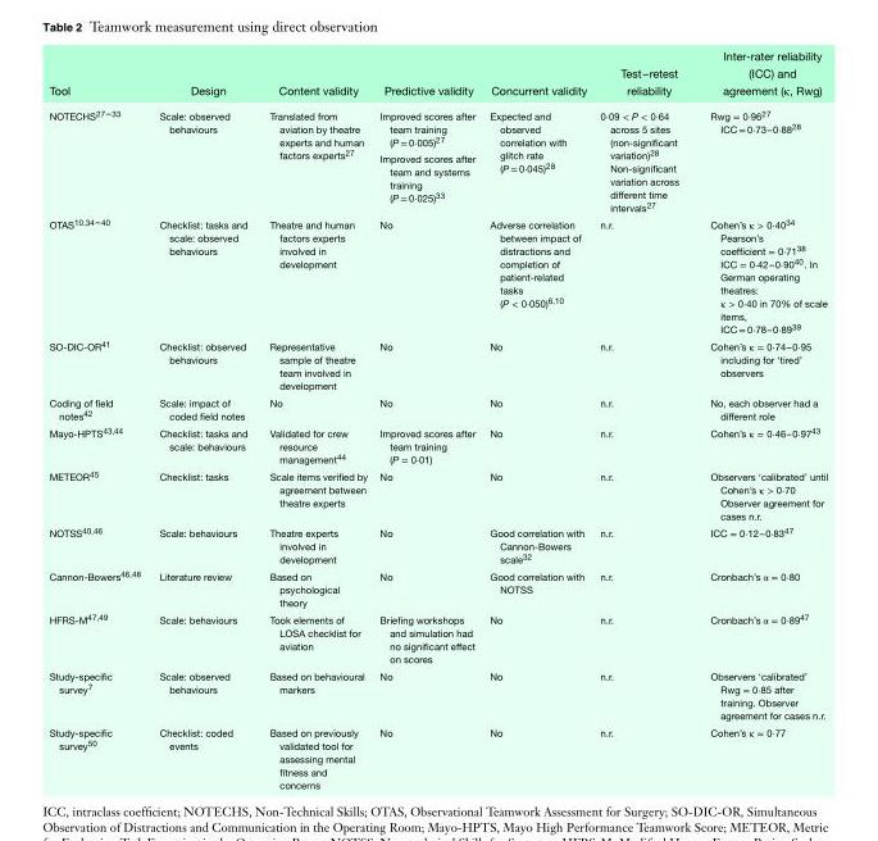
<table><thead><tr><td>Tool</td><td>Design</td><td>Content validity</td><td>Predictive validity</td><td>Concurrent validity</td><td>Test–retest reliability</td><td>Inter-rater reliability (ICC) and agreement (κ, Rwg)</td></tr></thead><tbody><tr><td>NOTECHS27–33</td><td>Scale: observed behaviours</td><td>Translated from aviation by theatre experts and human factors experts<sup>27</sup></td><td>Improved scores after team training (P = 0⋅005)27 Improved scores after team and systems training (P = 0⋅025)33</td><td>Expected and observed correlation with glitch rate (P = 0⋅045)28</td><td>0⋅09 &lt; P &lt; 0⋅64 across 5 sites (non-significant variation)28 Non-significant variation across different time intervals27</td><td>Rwg = 0⋅9627 ICC = 0⋅73–0⋅8828</td></tr><tr><td>OTAS10,34–40</td><td>Checklist: tasks and scale: observed behaviours</td><td>Theatre and human factors experts involved in development</td><td>No</td><td>Adverse correlation between impact of distractions and completion of patient-related tasks (P &lt; 0⋅050)6,10</td><td>n.r.</td><td>Cohen’s κ &gt; 0⋅4034 Pearson’s coefficient = 0⋅7138 ICC = 0⋅42–0⋅9040. In German operating theatres: κ &gt; 0⋅40 in 70% of scale items, ICC = 0⋅78–0⋅8939</td></tr><tr><td>SO-DIC-OR<sup>41</sup></td><td>Checklist: observed behaviours</td><td>Representative sample of theatre team involved in development</td><td>No</td><td>No</td><td>n.r.</td><td>Cohen’s κ = 0⋅74–0⋅95 including for ‘tired’ observers</td></tr><tr><td>Coding of field notes<sup>42</sup></td><td>Scale: impact of coded field notes</td><td>No</td><td>No</td><td>No</td><td>n.r.</td><td>No, each observer had a different role</td></tr><tr><td>Mayo-HPTS43,44</td><td>Checklist: tasks and scale: behaviours</td><td>Validated for crew resource management<sup>44</sup></td><td>Improved scores after team training (P = 0⋅01)</td><td>No</td><td>n.r.</td><td>Cohen’s κ = 0⋅46–0⋅9743</td></tr><tr><td>METEOR<sup>45</sup></td><td>Checklist: tasks</td><td>Scale items verified by agreement between theatre experts</td><td>No</td><td>No</td><td>n.r.</td><td>Observers ‘calibrated’ until Cohen’s κ &gt; 0⋅70 Observer agreement for cases n.r.</td></tr><tr><td>NOTSS40,46</td><td>Scale: behaviours</td><td>Theatre experts involved in development</td><td>No</td><td>Good correlation with Cannon-Bowers scale<sup>32</sup></td><td>n.r.</td><td>ICC = 0⋅12–0⋅8347</td></tr><tr><td>Cannon-Bowers46,48</td><td>Literature review</td><td>Based on psychological theory</td><td>No</td><td>Good correlation with NOTSS</td><td>n.r.</td><td>Cronbach’s α = 0⋅80</td></tr><tr><td>HFRS-M<sup>47,49</sup></td><td>Scale: behaviours</td><td>Took elements of LOSA checklist for aviation</td><td>Briefing workshops and simulation had no significant effect on scores</td><td>No</td><td>n.r.</td><td>Cronbach’s α = 0⋅8947</td></tr><tr><td>Study-specific survey<sup>7</sup></td><td>Scale: observed behaviours</td><td>Based on behavioural markers</td><td>No</td><td>No</td><td>n.r.</td><td>Observers ‘calibrated’ Rwg = 0⋅85 after training. Observer agreement for cases n.r.</td></tr><tr><td>Study-specific survey<sup>50</sup></td><td>Checklist: coded events</td><td>Based on previously validated tool for assessing mental fitness and concerns</td><td>No</td><td>No</td><td>n.r.</td><td>Cohen’s κ = 0⋅77</td></tr></tbody></table>